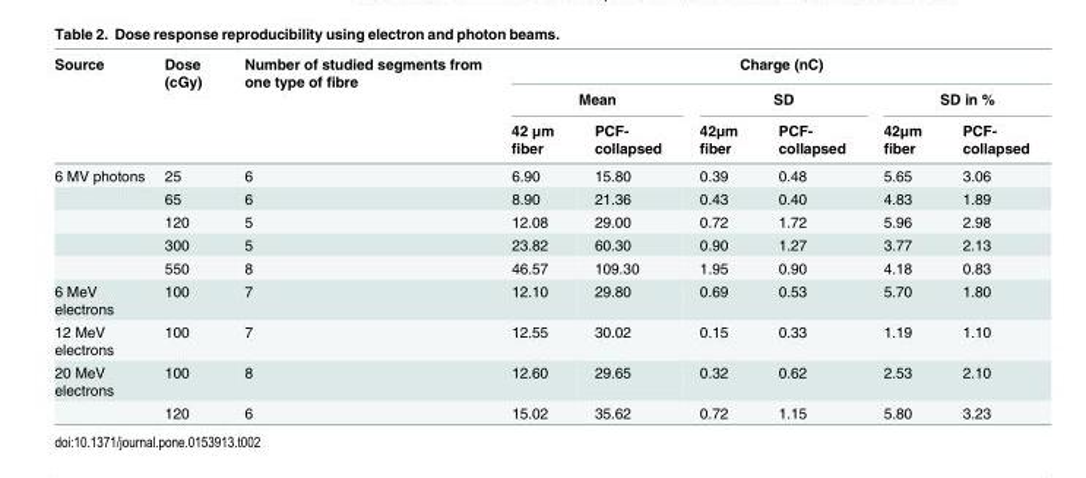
<table><thead><tr><td rowspan="3">Source</td><td rowspan="3">Dose (cGy)</td><td rowspan="3">Number of studied segments from one type of fibre</td><td colspan="6">Charge (nC)</td></tr><tr><td colspan="2">Mean</td><td colspan="2">SD</td><td colspan="2">SD in %</td></tr><tr><td>42 μm fiber</td><td>PCF- collapsed</td><td>42μm fiber</td><td>PCF- collapsed</td><td>42μm fiber</td><td>PCF- collapsed</td></tr></thead><tbody><tr><td rowspan="5">6 MV photons</td><td>25</td><td>6</td><td>6.90</td><td>15.80</td><td>0.39</td><td>0.48</td><td>5.65</td><td>3.06</td></tr><tr><td>65</td><td>6</td><td>8.90</td><td>21.36</td><td>0.43</td><td>0.40</td><td>4.83</td><td>1.89</td></tr><tr><td>120</td><td>5</td><td>12.08</td><td>29.00</td><td>0.72</td><td>1.72</td><td>5.96</td><td>2.98</td></tr><tr><td>300</td><td>5</td><td>23.82</td><td>60.30</td><td>0.90</td><td>1.27</td><td>3.77</td><td>2.13</td></tr><tr><td>550</td><td>8</td><td>46.57</td><td>109.30</td><td>1.95</td><td>0.90</td><td>4.18</td><td>0.83</td></tr><tr><td>6 MeV electrons</td><td>100</td><td>7</td><td>12.10</td><td>29.80</td><td>0.69</td><td>0.53</td><td>5.70</td><td>1.80</td></tr><tr><td>12 MeV electrons</td><td>100</td><td>7</td><td>12.55</td><td>30.02</td><td>0.15</td><td>0.33</td><td>1.19</td><td>1.10</td></tr><tr><td rowspan="2">20 MeV electrons</td><td>100</td><td>8</td><td>12.60</td><td>29.65</td><td>0.32</td><td>0.62</td><td>2.53</td><td>2.10</td></tr><tr><td>120</td><td>6</td><td>15.02</td><td>35.62</td><td>0.72</td><td>1.15</td><td>5.80</td><td>3.23</td></tr></tbody></table>